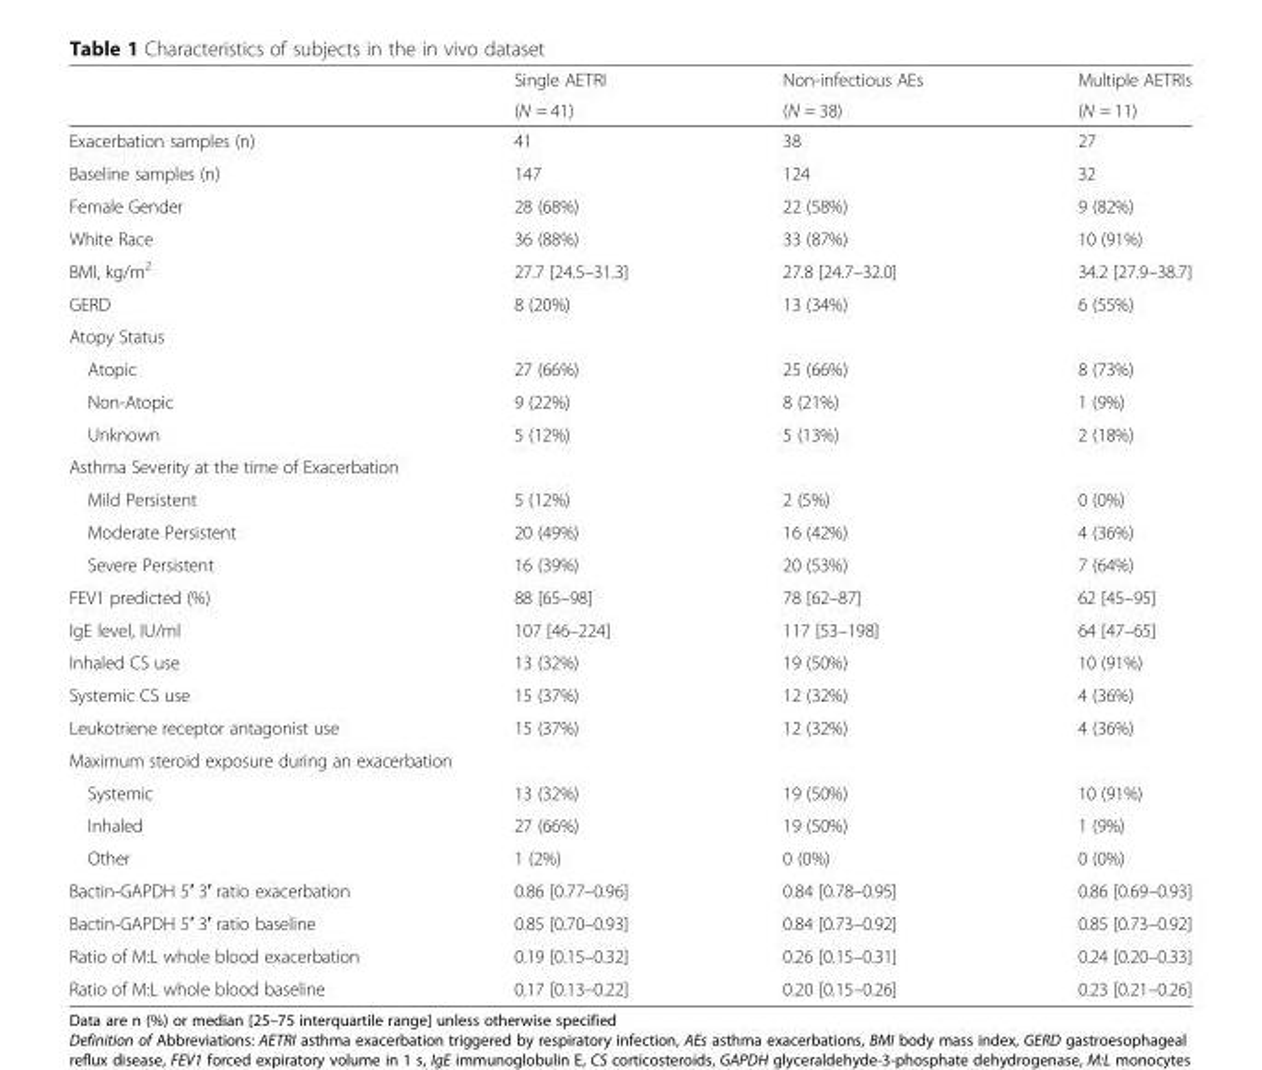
<table><thead><tr><td rowspan="2"></td><td rowspan="2">Single AETRI (N = 41)</td><td rowspan="2">Non-infectious AEs (N = 38)</td><td rowspan="2">Multiple AETRIs (N = 11)</td></tr><tr></tr></thead><tbody><tr><td>Exacerbation samples (n)</td><td>41</td><td>38</td><td>27</td></tr><tr><td>Baseline samples (n)</td><td>147</td><td>124</td><td>32</td></tr><tr><td>Female Gender</td><td>28 (68%)</td><td>22 (58%)</td><td>9 (82%)</td></tr><tr><td>White Race</td><td>36 (88%)</td><td>33 (87%)</td><td>10 (91%)</td></tr><tr><td>BMI, kg/m<sup>2</sup></td><td>27.7 [24.5–31.3]</td><td>27.8 [24.7–32.0]</td><td>34.2 [27.9–38.7]</td></tr><tr><td>GERD</td><td>8 (20%)</td><td>13 (34%)</td><td>6 (55%)</td></tr><tr><td colspan="4">Atopy Status</td></tr><tr><td>Atopic</td><td>27 (66%)</td><td>25 (66%)</td><td>8 (73%)</td></tr><tr><td>Non-Atopic</td><td>9 (22%)</td><td>8 (21%)</td><td>1 (9%)</td></tr><tr><td>Unknown</td><td>5 (12%)</td><td>5 (13%)</td><td>2 (18%)</td></tr><tr><td colspan="4">Asthma Severity at the time of Exacerbation</td></tr><tr><td>Mild Persistent</td><td>5 (12%)</td><td>2 (5%)</td><td>0 (0%)</td></tr><tr><td>Moderate Persistent</td><td>20 (49%)</td><td>16 (42%)</td><td>4 (36%)</td></tr><tr><td>Severe Persistent</td><td>16 (39%)</td><td>20 (53%)</td><td>7 (64%)</td></tr><tr><td>FEV1 predicted (%)</td><td>88 [65–98]</td><td>78 [62–87]</td><td>62 [45–95]</td></tr><tr><td>IgE level, IU/ml</td><td>107 [46–224]</td><td>117 [53–198]</td><td>64 [47–65]</td></tr><tr><td>Inhaled CS use</td><td>13 (32%)</td><td>19 (50%)</td><td>10 (91%)</td></tr><tr><td>Systemic CS use</td><td>15 (37%)</td><td>12 (32%)</td><td>4 (36%)</td></tr><tr><td>Leukotriene receptor antagonist use</td><td>15 (37%)</td><td>12 (32%)</td><td>4 (36%)</td></tr><tr><td colspan="4">Maximum steroid exposure during an exacerbation</td></tr><tr><td>Systemic</td><td>13 (32%)</td><td>19 (50%)</td><td>10 (91%)</td></tr><tr><td>Inhaled</td><td>27 (66%)</td><td>19 (50%)</td><td>1 (9%)</td></tr><tr><td>Other</td><td>1 (2%)</td><td>0 (0%)</td><td>0 (0%)</td></tr><tr><td>Bactin-GAPDH 5′ 3′ ratio exacerbation</td><td>0.86 [0.77–0.96]</td><td>0.84 [0.78–0.95]</td><td>0.86 [0.69–0.93]</td></tr><tr><td>Bactin-GAPDH 5′ 3′ ratio baseline</td><td>0.85 [0.70–0.93]</td><td>0.84 [0.73–0.92]</td><td>0.85 [0.73–0.92]</td></tr><tr><td>Ratio of M:L whole blood exacerbation</td><td>0.19 [0.15–0.32]</td><td>0.26 [0.15–0.31]</td><td>0.24 [0.20–0.33]</td></tr><tr><td>Ratio of M:L whole blood baseline</td><td>0.17 [0.13–0.22]</td><td>0.20 [0.15–0.26]</td><td>0.23 [0.21–0.26]</td></tr></tbody></table>